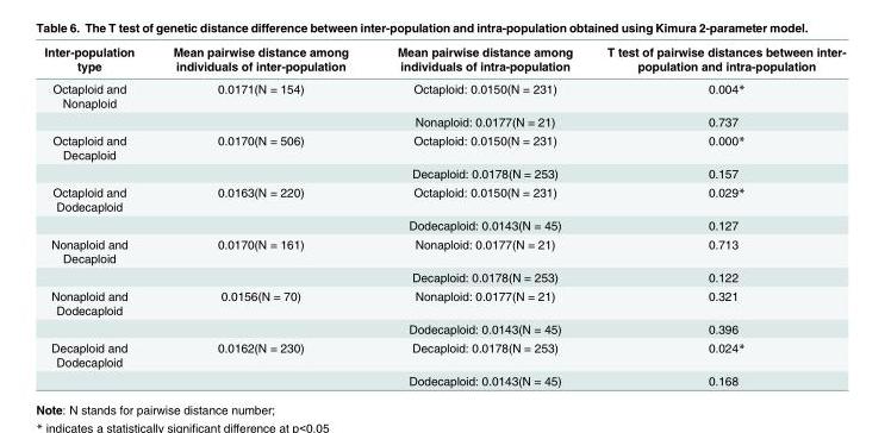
<table><thead><tr><td>Inter-population type</td><td>Mean pairwise distance among individuals of inter-population</td><td>Mean pairwise distance among individuals of intra-population</td><td>T test of pairwise distances between inter- population and intra-population</td></tr></thead><tbody><tr><td rowspan="2">Octaploid and Nonaploid</td><td>0.0171(N = 154)</td><td>Octaploid: 0.0150(N = 231)</td><td>0.004*</td></tr><tr><td></td><td>Nonaploid: 0.0177(N = 21)</td><td>0.737</td></tr><tr><td rowspan="2">Octaploid and Decaploid</td><td>0.0170(N = 506)</td><td>Octaploid: 0.0150(N = 231)</td><td>0.000*</td></tr><tr><td></td><td>Decaploid: 0.0178(N = 253)</td><td>0.157</td></tr><tr><td rowspan="2">Octaploid and Dodecaploid</td><td>0.0163(N = 220)</td><td>Octaploid: 0.0150(N = 231)</td><td>0.029*</td></tr><tr><td></td><td>Dodecaploid: 0.0143(N = 45)</td><td>0.127</td></tr><tr><td rowspan="2">Nonaploid and Decaploid</td><td>0.0170(N = 161)</td><td>Nonaploid: 0.0177(N = 21)</td><td>0.713</td></tr><tr><td></td><td>Decaploid: 0.0178(N = 253)</td><td>0.122</td></tr><tr><td rowspan="2">Nonaploid and Dodecaploid</td><td>0.0156(N = 70)</td><td>Nonaploid: 0.0177(N = 21)</td><td>0.321</td></tr><tr><td></td><td>Dodecaploid: 0.0143(N = 45)</td><td>0.396</td></tr><tr><td rowspan="2">Decaploid and Dodecaploid</td><td>0.0162(N = 230)</td><td>Decaploid: 0.0178(N = 253)</td><td>0.024*</td></tr><tr><td></td><td>Dodecaploid: 0.0143(N = 45)</td><td>0.168</td></tr></tbody></table>